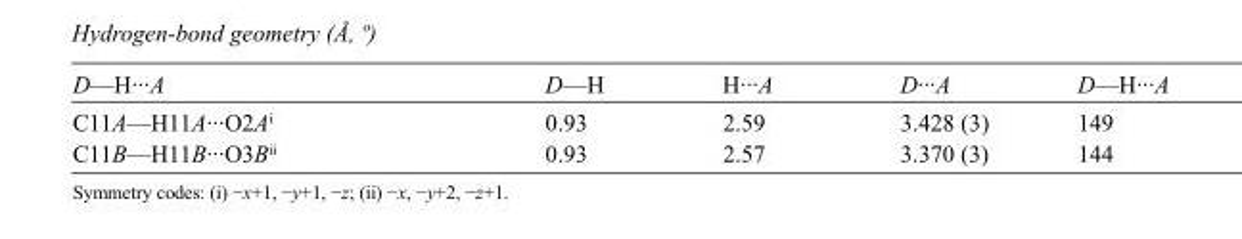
<table><tbody><tr><td>D—H···A</td><td>D—H</td><td>H···A</td><td>D···A</td><td>D—H···A</td></tr><tr><td>C11A—H11A···O2A<sup>i</sup></td><td>0.93</td><td>2.59</td><td>3.428 (3)</td><td>149</td></tr><tr><td>C11B—H11B···O3B<sup>ii</sup></td><td>0.93</td><td>2.57</td><td>3.370 (3)</td><td>144</td></tr></tbody></table>